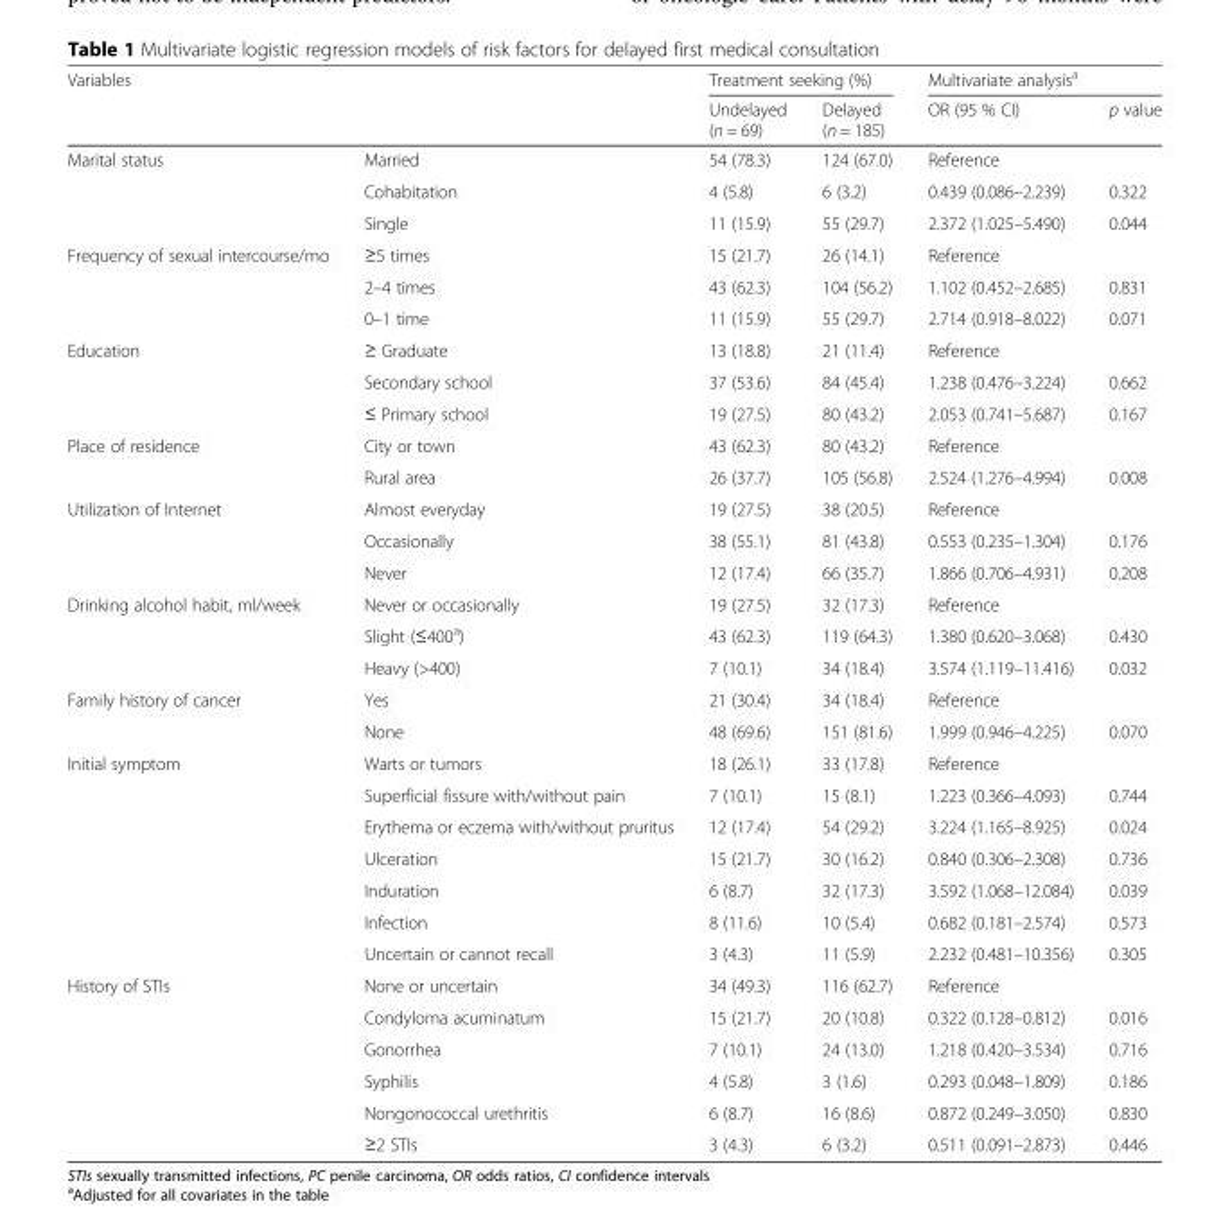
<table><thead><tr><td rowspan="2">Variables</td><td rowspan="2"></td><td colspan="2">Treatment seeking (%)</td><td colspan="2">Multivariate analysis<sup>a</sup></td></tr><tr><td>Undelayed (n = 69)</td><td>Delayed (n = 185)</td><td>OR (95 % CI)</td><td>p value</td></tr></thead><tbody><tr><td rowspan="3">Marital status</td><td>Married</td><td>54 (78.3)</td><td>124 (67.0)</td><td>Reference</td><td></td></tr><tr><td>Cohabitation</td><td>4 (5.8)</td><td>6 (3.2)</td><td>0.439 (0.086–2.239)</td><td>0.322</td></tr><tr><td>Single</td><td>11 (15.9)</td><td>55 (29.7)</td><td>2.372 (1.025–5.490)</td><td>0.044</td></tr><tr><td rowspan="3">Frequency of sexual intercourse/mo</td><td>≥5 times</td><td>15 (21.7)</td><td>26 (14.1)</td><td>Reference</td><td></td></tr><tr><td>2–4 times</td><td>43 (62.3)</td><td>104 (56.2)</td><td>1.102 (0.452–2.685)</td><td>0.831</td></tr><tr><td>0–1 time</td><td>11 (15.9)</td><td>55 (29.7)</td><td>2.714 (0.918–8.022)</td><td>0.071</td></tr><tr><td rowspan="3">Education</td><td>≥ Graduate</td><td>13 (18.8)</td><td>21 (11.4)</td><td>Reference</td><td></td></tr><tr><td>Secondary school</td><td>37 (53.6)</td><td>84 (45.4)</td><td>1.238 (0.476–3.224)</td><td>0.662</td></tr><tr><td>≤ Primary school</td><td>19 (27.5)</td><td>80 (43.2)</td><td>2.053 (0.741–5.687)</td><td>0.167</td></tr><tr><td rowspan="2">Place of residence</td><td>City or town</td><td>43 (62.3)</td><td>80 (43.2)</td><td>Reference</td><td></td></tr><tr><td>Rural area</td><td>26 (37.7)</td><td>105 (56.8)</td><td>2.524 (1.276–4.994)</td><td>0.008</td></tr><tr><td rowspan="3">Utilization of Internet</td><td>Almost everyday</td><td>19 (27.5)</td><td>38 (20.5)</td><td>Reference</td><td></td></tr><tr><td>Occasionally</td><td>38 (55.1)</td><td>81 (43.8)</td><td>0.553 (0.235–1.304)</td><td>0.176</td></tr><tr><td>Never</td><td>12 (17.4)</td><td>66 (35.7)</td><td>1.866 (0.706–4.931)</td><td>0.208</td></tr><tr><td rowspan="3">Drinking alcohol habit, ml/week</td><td>Never or occasionally</td><td>19 (27.5)</td><td>32 (17.3)</td><td>Reference</td><td></td></tr><tr><td>Slight (≤400<sup>a</sup>)</td><td>43 (62.3)</td><td>119 (64.3)</td><td>1.380 (0.620–3.068)</td><td>0.430</td></tr><tr><td>Heavy (&gt;400)</td><td>7 (10.1)</td><td>34 (18.4)</td><td>3.574 (1.119–11.416)</td><td>0.032</td></tr><tr><td rowspan="2">Family history of cancer</td><td>Yes</td><td>21 (30.4)</td><td>34 (18.4)</td><td>Reference</td><td></td></tr><tr><td>None</td><td>48 (69.6)</td><td>151 (81.6)</td><td>1.999 (0.946–4.225)</td><td>0.070</td></tr><tr><td rowspan="7">Initial symptom</td><td>Warts or tumors</td><td>18 (26.1)</td><td>33 (17.8)</td><td>Reference</td><td></td></tr><tr><td>Superficial fissure with/without pain</td><td>7 (10.1)</td><td>15 (8.1)</td><td>1.223 (0.366–4.093)</td><td>0.744</td></tr><tr><td>Erythema or eczema with/without pruritus</td><td>12 (17.4)</td><td>54 (29.2)</td><td>3.224 (1.165–8.925)</td><td>0.024</td></tr><tr><td>Ulceration</td><td>15 (21.7)</td><td>30 (16.2)</td><td>0.840 (0.306–2.308)</td><td>0.736</td></tr><tr><td>Induration</td><td>6 (8.7)</td><td>32 (17.3)</td><td>3.592 (1.068–12.084)</td><td>0.039</td></tr><tr><td>Infection</td><td>8 (11.6)</td><td>10 (5.4)</td><td>0.682 (0.181–2.574)</td><td>0.573</td></tr><tr><td>Uncertain or cannot recall</td><td>3 (4.3)</td><td>11 (5.9)</td><td>2.232 (0.481–10.356)</td><td>0.305</td></tr><tr><td rowspan="6">History of STIs</td><td>None or uncertain</td><td>34 (49.3)</td><td>116 (62.7)</td><td>Reference</td><td></td></tr><tr><td>Condyloma acuminatum</td><td>15 (21.7)</td><td>20 (10.8)</td><td>0.322 (0.128–0.812)</td><td>0.016</td></tr><tr><td>Gonorrhea</td><td>7 (10.1)</td><td>24 (13.0)</td><td>1.218 (0.420–3.534)</td><td>0.716</td></tr><tr><td>Syphilis</td><td>4 (5.8)</td><td>3 (1.6)</td><td>0.293 (0.048–1.809)</td><td>0.186</td></tr><tr><td>Nongonococcal urethritis</td><td>6 (8.7)</td><td>16 (8.6)</td><td>0.872 (0.249–3.050)</td><td>0.830</td></tr><tr><td>≥2 STIs</td><td>3 (4.3)</td><td>6 (3.2)</td><td>0.511 (0.091–2.873)</td><td>0.446</td></tr></tbody></table>